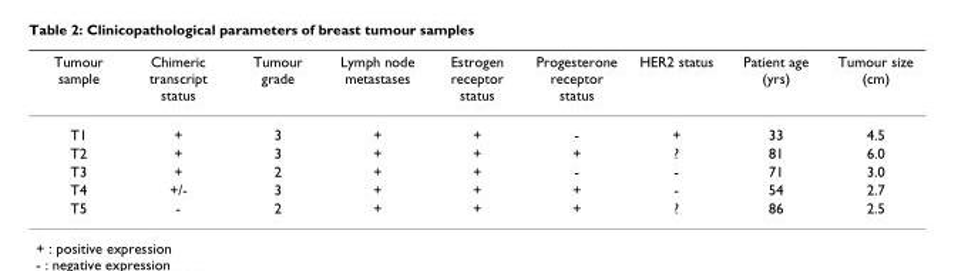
<table><thead><tr><td>Tumour sample</td><td>Chimeric transcript status</td><td>Tumour grade</td><td>Lymph node metastases</td><td>Estrogen receptor status</td><td>Progesterone receptor status</td><td>HER2 status</td><td>Patient age (yrs)</td><td>Tumour size (cm)</td></tr></thead><tbody><tr><td>T1</td><td>+</td><td>3</td><td>+</td><td>+</td><td>-</td><td>+</td><td>33</td><td>4.5</td></tr><tr><td>T2</td><td>+</td><td>3</td><td>+</td><td>+</td><td>+</td><td>?</td><td>81</td><td>6.0</td></tr><tr><td>T3</td><td>+</td><td>2</td><td>+</td><td>+</td><td>-</td><td>-</td><td>71</td><td>3.0</td></tr><tr><td>T4</td><td>+/-</td><td>3</td><td>+</td><td>+</td><td>+</td><td>-</td><td>54</td><td>2.7</td></tr><tr><td>T5</td><td>-</td><td>2</td><td>+</td><td>+</td><td>+</td><td>?</td><td>86</td><td>2.5</td></tr></tbody></table>